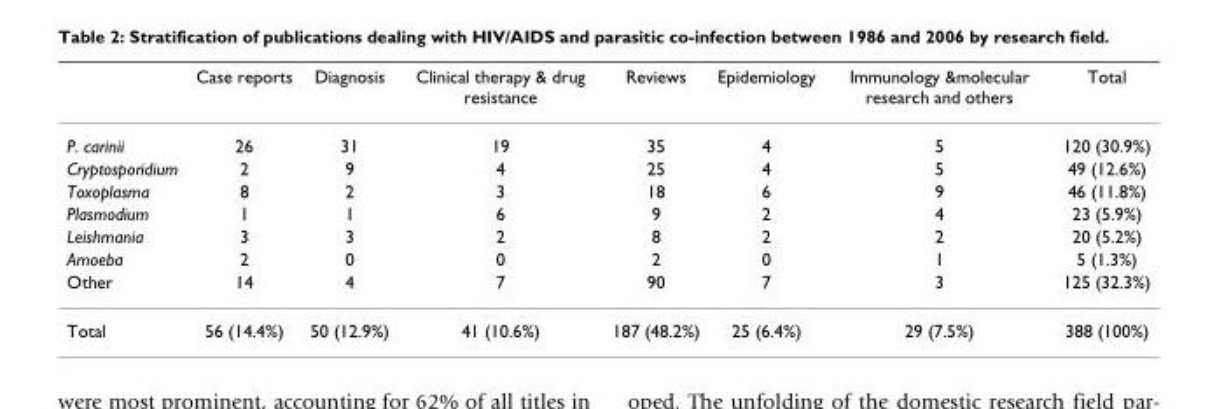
<table><thead><tr><td></td><td>Case reports</td><td>Diagnosis</td><td>Clinical therapy &amp; drug resistance</td><td>Reviews</td><td>Epidemiology</td><td>Immunology &amp;molecular research and others</td><td>Total</td></tr></thead><tbody><tr><td>P. carinii</td><td>26</td><td>31</td><td>19</td><td>35</td><td>4</td><td>5</td><td>120 (30.9%)</td></tr><tr><td>Cryptosporidium</td><td>2</td><td>9</td><td>4</td><td>25</td><td>4</td><td>5</td><td>49 (12.6%)</td></tr><tr><td>Toxoplasma</td><td>8</td><td>2</td><td>3</td><td>18</td><td>6</td><td>9</td><td>46 (11.8%)</td></tr><tr><td>Plasmodium</td><td>1</td><td>1</td><td>6</td><td>9</td><td>2</td><td>4</td><td>23 (5.9%)</td></tr><tr><td>Leishmania</td><td>3</td><td>3</td><td>2</td><td>8</td><td>2</td><td>2</td><td>20 (5.2%)</td></tr><tr><td>Amoeba</td><td>2</td><td>0</td><td>0</td><td>2</td><td>0</td><td>1</td><td>5 (1.3%)</td></tr><tr><td>Other</td><td>14</td><td>4</td><td>7</td><td>90</td><td>7</td><td>3</td><td>125 (32.3%)</td></tr><tr><td>Total</td><td>56 (14.4%)</td><td>50 (12.9%)</td><td>41 (10.6%)</td><td>187 (48.2%)</td><td>25 (6.4%)</td><td>29 (7.5%)</td><td>388 (100%)</td></tr></tbody></table>